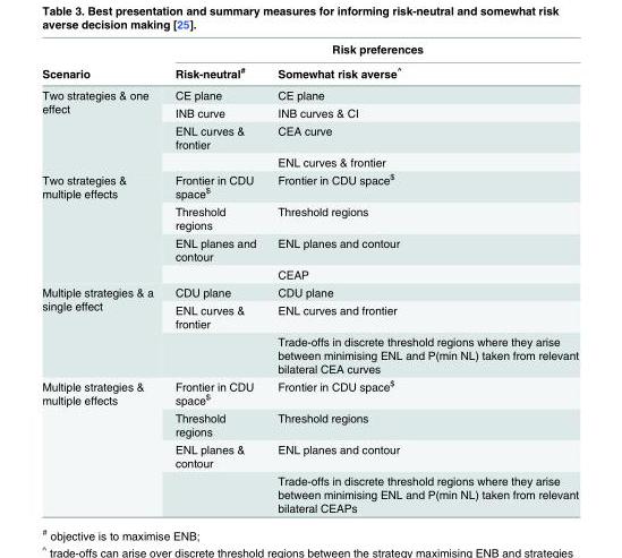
<table><thead><tr><td rowspan="2">Scenario</td><td colspan="2">Risk preferences</td></tr><tr><td>Risk-neutral<sup>#</sup></td><td>Somewhat risk averse<sup>^</sup></td></tr></thead><tbody><tr><td rowspan="4">Two strategies &amp; one effect</td><td>CE plane</td><td>CE plane</td></tr><tr><td>INB curve</td><td>INB curves &amp; CI</td></tr><tr><td>ENL curves &amp; frontier</td><td>CEA curve</td></tr><tr><td></td><td>ENL curves &amp; frontier</td></tr><tr><td rowspan="4">Two strategies &amp; multiple effects</td><td>Frontier in CDU space<sup>$</sup></td><td>Frontier in CDU space<sup>$</sup></td></tr><tr><td>Threshold regions</td><td>Threshold regions</td></tr><tr><td>ENL planes and contour</td><td>ENL planes and contour</td></tr><tr><td></td><td>CEAP</td></tr><tr><td rowspan="3">Multiple strategies &amp; a single effect</td><td>CDU plane</td><td>CDU plane</td></tr><tr><td>ENL curves &amp; frontier</td><td>ENL curves and frontier</td></tr><tr><td></td><td>Trade-offs in discrete threshold regions where they arise between minimising ENL and P(min NL) taken from relevant bilateral CEA curves</td></tr><tr><td rowspan="4">Multiple strategies &amp; multiple effects</td><td>Frontier in CDU space<sup>$</sup></td><td>Frontier in CDU space<sup>$</sup></td></tr><tr><td>Threshold regions</td><td>Threshold regions</td></tr><tr><td>ENL planes &amp; contour</td><td>ENL planes and contour</td></tr><tr><td></td><td>Trade-offs in discrete threshold regions where they arise between minimising ENL and P(min NL) taken from relevant bilateral CEAPs</td></tr></tbody></table>